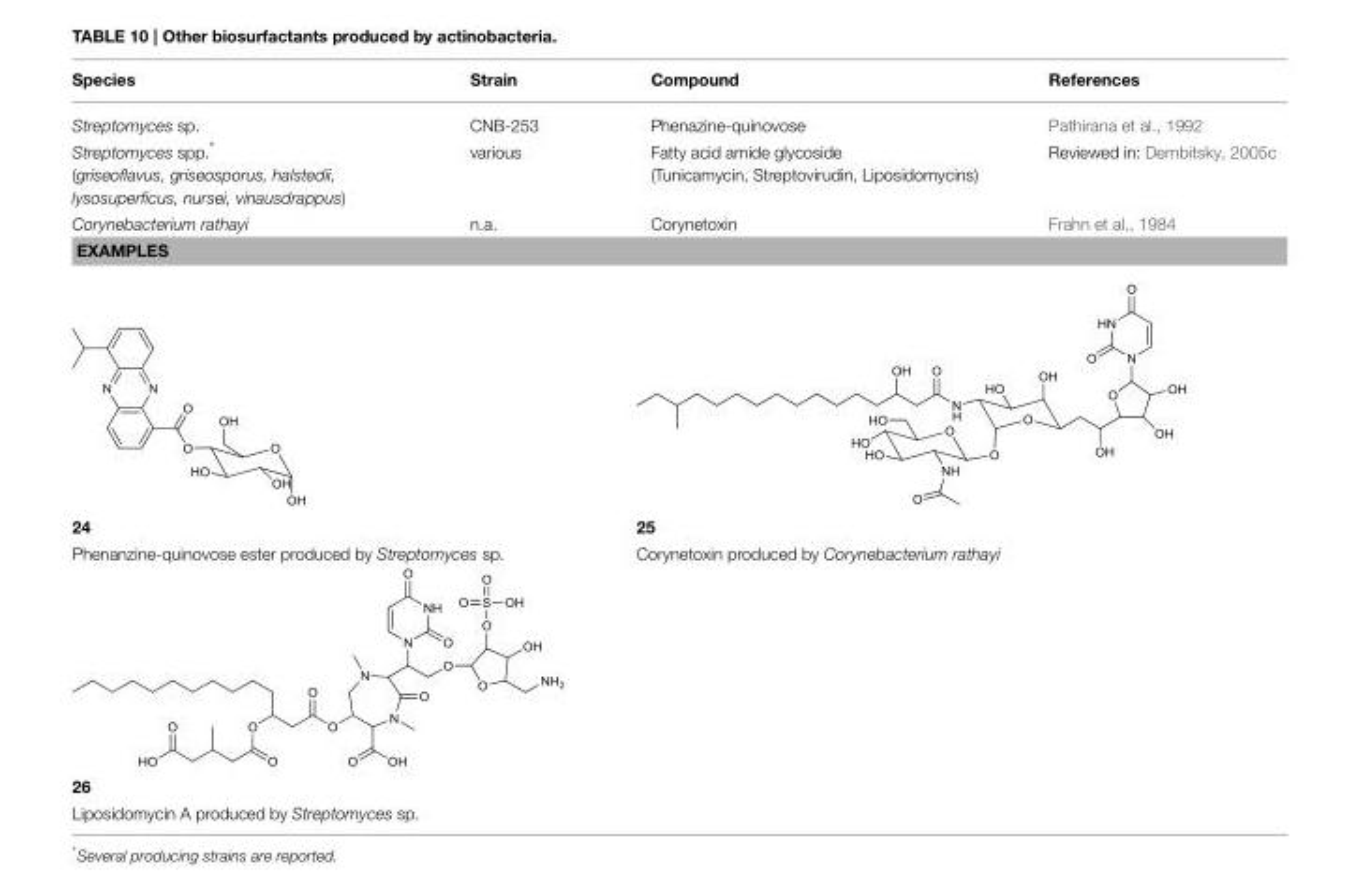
<table><thead><tr><td>Species</td><td>Strain</td><td>Compound</td><td>References</td></tr></thead><tbody><tr><td>Streptomyces sp.</td><td>CNB-253</td><td>Phenazine-quinovose</td><td>Pathirana et al., 1992</td></tr><tr><td>Streptomyces spp.* (griseoflavus, griseosporus, halstedii, lysosuperficus, nursei, vinausdrappus)</td><td>various</td><td>Fatty acid amide glycoside (Tunicamycin, Streptovirudin, Liposidomycins)</td><td>Reviewed in: Dembitsky, 2005c</td></tr><tr><td>Corynebacterium rathayi</td><td>n.a.</td><td>Corynetoxin</td><td>Frahn et al., 1984</td></tr><tr><td colspan="4">EXAMPLES</td></tr><tr><td colspan="2">24</td><td colspan="2">25</td></tr><tr><td colspan="2">Phenanzine-quinovose ester produced by Streptomyces sp.</td><td colspan="2">Corynetoxin produced by Corynebacterium rathayi</td></tr><tr><td colspan="4">26</td></tr><tr><td colspan="4">Liposidomycin A produced by Streptomyces sp.</td></tr></tbody></table>